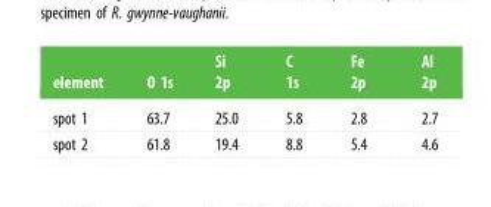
<table><thead><tr><td>element</td><td>O 1s</td><td>Si 2p</td><td>C 1s</td><td>Fe 2p</td><td>Al 2p</td></tr></thead><tbody><tr><td>spot 1</td><td>63.7</td><td>25.0</td><td>5.8</td><td>2.8</td><td>2.7</td></tr><tr><td>spot 2</td><td>61.8</td><td>19.4</td><td>8.8</td><td>5.4</td><td>4.6</td></tr></tbody></table>